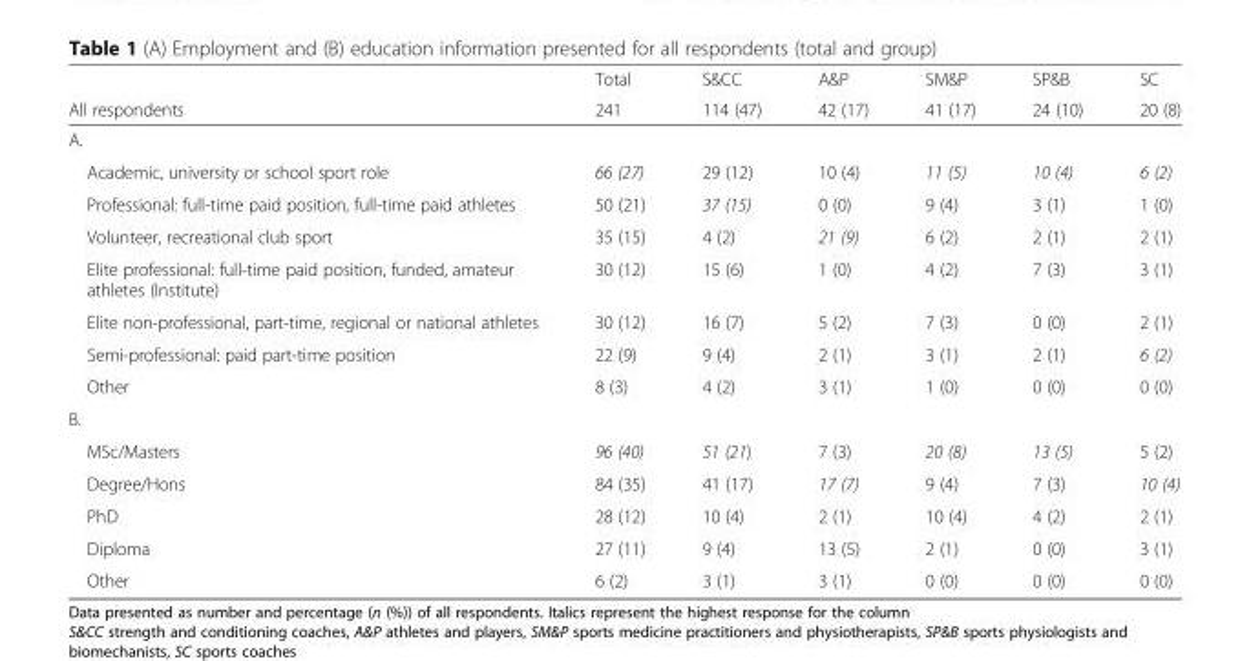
<table><thead><tr><td rowspan="2">All respondents</td><td rowspan="2">Total 241</td><td rowspan="2">S&amp;CC 114 (47)</td><td rowspan="2">A&amp;P 42 (17)</td><td rowspan="2">SM&amp;P 41 (17)</td><td rowspan="2">SP&amp;B 24 (10)</td><td rowspan="2">SC 20 (8)</td></tr><tr></tr></thead><tbody><tr><td colspan="7">A.</td></tr><tr><td>Academic, university or school sport role</td><td>66 (27)</td><td>29 (12)</td><td>10 (4)</td><td>11 (5)</td><td>10 (4)</td><td>6 (2)</td></tr><tr><td>Professional: full-time paid position, full-time paid athletes</td><td>50 (21)</td><td>37 (15)</td><td>0 (0)</td><td>9 (4)</td><td>3 (1)</td><td>1 (0)</td></tr><tr><td>Volunteer, recreational club sport</td><td>35 (15)</td><td>4 (2)</td><td>21 (9)</td><td>6 (2)</td><td>2 (1)</td><td>2 (1)</td></tr><tr><td>Elite professional: full-time paid position, funded, amateur athletes (Institute)</td><td>30 (12)</td><td>15 (6)</td><td>1 (0)</td><td>4 (2)</td><td>7 (3)</td><td>3 (1)</td></tr><tr><td>Elite non-professional, part-time, regional or national athletes</td><td>30 (12)</td><td>16 (7)</td><td>5 (2)</td><td>7 (3)</td><td>0 (0)</td><td>2 (1)</td></tr><tr><td>Semi-professional: paid part-time position</td><td>22 (9)</td><td>9 (4)</td><td>2 (1)</td><td>3 (1)</td><td>2 (1)</td><td>6 (2)</td></tr><tr><td>Other</td><td>8 (3)</td><td>4 (2)</td><td>3 (1)</td><td>1 (0)</td><td>0 (0)</td><td>0 (0)</td></tr><tr><td colspan="7">B.</td></tr><tr><td>MSc/Masters</td><td>96 (40)</td><td>51 (21)</td><td>7 (3)</td><td>20 (8)</td><td>13 (5)</td><td>5 (2)</td></tr><tr><td>Degree/Hons</td><td>84 (35)</td><td>41 (17)</td><td>17 (7)</td><td>9 (4)</td><td>7 (3)</td><td>10 (4)</td></tr><tr><td>PhD</td><td>28 (12)</td><td>10 (4)</td><td>2 (1)</td><td>10 (4)</td><td>4 (2)</td><td>2 (1)</td></tr><tr><td>Diploma</td><td>27 (11)</td><td>9 (4)</td><td>13 (5)</td><td>2 (1)</td><td>0 (0)</td><td>3 (1)</td></tr><tr><td>Other</td><td>6 (2)</td><td>3 (1)</td><td>3 (1)</td><td>0 (0)</td><td>0 (0)</td><td>0 (0)</td></tr></tbody></table>